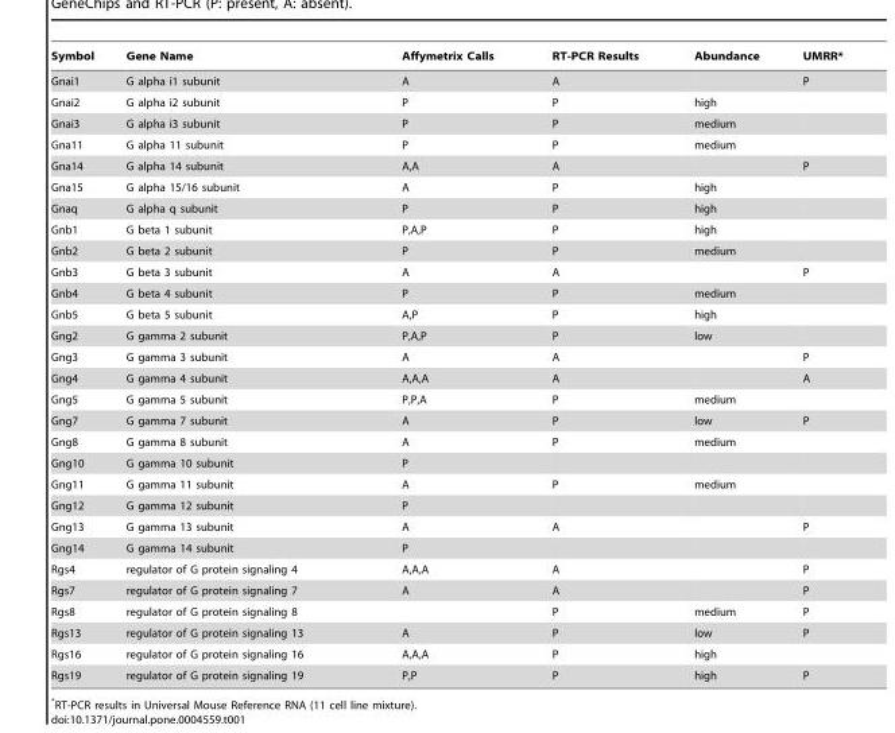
<table><thead><tr><td>Symbol</td><td>Gene Name</td><td>Affymetrix Calls</td><td>RT-PCR Results</td><td>Abundance</td><td>UMRR*</td></tr></thead><tbody><tr><td>Gnai1</td><td>G alpha i1 subunit</td><td>A</td><td>A</td><td></td><td>P</td></tr><tr><td>Gnai2</td><td>G alpha i2 subunit</td><td>P</td><td>P</td><td>high</td><td></td></tr><tr><td>Gnai3</td><td>G alpha i3 subunit</td><td>P</td><td>P</td><td>medium</td><td></td></tr><tr><td>Gna11</td><td>G alpha 11 subunit</td><td>P</td><td>P</td><td>medium</td><td></td></tr><tr><td>Gna14</td><td>G alpha 14 subunit</td><td>A,A</td><td>A</td><td></td><td>P</td></tr><tr><td>Gna15</td><td>G alpha 15/16 subunit</td><td>A</td><td>P</td><td>high</td><td></td></tr><tr><td>Gnaq</td><td>G alpha q subunit</td><td>P</td><td>P</td><td>high</td><td></td></tr><tr><td>Gnb1</td><td>G beta 1 subunit</td><td>P,A,P</td><td>P</td><td>high</td><td></td></tr><tr><td>Gnb2</td><td>G beta 2 subunit</td><td>P</td><td>P</td><td>medium</td><td></td></tr><tr><td>Gnb3</td><td>G beta 3 subunit</td><td>A</td><td>A</td><td></td><td>P</td></tr><tr><td>Gnb4</td><td>G beta 4 subunit</td><td>P</td><td>P</td><td>medium</td><td></td></tr><tr><td>Gnb5</td><td>G beta 5 subunit</td><td>A,P</td><td>P</td><td>high</td><td></td></tr><tr><td>Gng2</td><td>G gamma 2 subunit</td><td>P,A,P</td><td>P</td><td>low</td><td></td></tr><tr><td>Gng3</td><td>G gamma 3 subunit</td><td>A</td><td>A</td><td></td><td>P</td></tr><tr><td>Gng4</td><td>G gamma 4 subunit</td><td>A,A,A</td><td>A</td><td></td><td>A</td></tr><tr><td>Gng5</td><td>G gamma 5 subunit</td><td>P,P,A</td><td>P</td><td>medium</td><td></td></tr><tr><td>Gng7</td><td>G gamma 7 subunit</td><td>A</td><td>P</td><td>low</td><td>P</td></tr><tr><td>Gng8</td><td>G gamma 8 subunit</td><td>A</td><td>P</td><td>medium</td><td></td></tr><tr><td>Gng10</td><td>G gamma 10 subunit</td><td>P</td><td></td><td></td><td></td></tr><tr><td>Gng11</td><td>G gamma 11 subunit</td><td>A</td><td>P</td><td>medium</td><td></td></tr><tr><td>Gng12</td><td>G gamma 12 subunit</td><td>P</td><td></td><td></td><td></td></tr><tr><td>Gng13</td><td>G gamma 13 subunit</td><td>A</td><td>A</td><td></td><td>P</td></tr><tr><td>Gng14</td><td>G gamma 14 subunit</td><td>P</td><td></td><td></td><td></td></tr><tr><td>Rgs4</td><td>regulator of G protein signaling 4</td><td>A,A,A</td><td>A</td><td></td><td>P</td></tr><tr><td>Rgs7</td><td>regulator of G protein signaling 7</td><td>A</td><td>A</td><td></td><td>P</td></tr><tr><td>Rgs8</td><td>regulator of G protein signaling 8</td><td></td><td>P</td><td>medium</td><td>P</td></tr><tr><td>Rgs13</td><td>regulator of G protein signaling 13</td><td>A</td><td>P</td><td>low</td><td>P</td></tr><tr><td>Rgs16</td><td>regulator of G protein signaling 16</td><td>A,A,A</td><td>P</td><td>high</td><td></td></tr><tr><td>Rgs19</td><td>regulator of G protein signaling 19</td><td>P,P</td><td>P</td><td>high</td><td>P</td></tr></tbody></table>